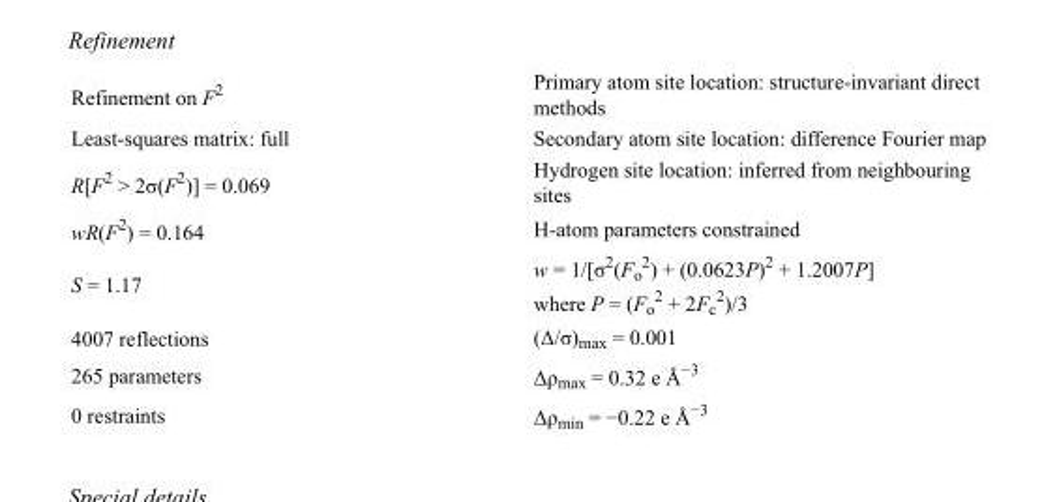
<table><tbody><tr><td>Refinement on F<sup>2</sup></td><td>Primary atom site location: structure-invariant direct methods</td></tr><tr><td>Least-squares matrix: full</td><td>Secondary atom site location: difference Fourier map</td></tr><tr><td>R[F<sup>2</sup> &gt; 2σ(F<sup>2</sup>)] = 0.069</td><td>Hydrogen site location: inferred from neighbouring sites</td></tr><tr><td>wR(F<sup>2</sup>) = 0.164</td><td>H-atom parameters constrained</td></tr><tr><td>S = 1.17</td><td>w = 1/[σ<sup>2</sup>(F<sub>o</sub> <sup>2</sup>) + (0.0623P)<sup>2</sup> + 1.2007P] where P = (F<sub>o</sub> <sup>2</sup> + 2F<sub>c</sub> <sup>2</sup>)/3</td></tr><tr><td>4007 reflections</td><td>(Δ/σ)<sub>max</sub> = 0.001</td></tr><tr><td>265 parameters</td><td>Δρ<sub>max</sub> = 0.32 e Å<sup>−3</sup></td></tr><tr><td>0 restraints</td><td>Δρ<sub>min</sub> = −0.22 e Å<sup>−3</sup></td></tr></tbody></table>